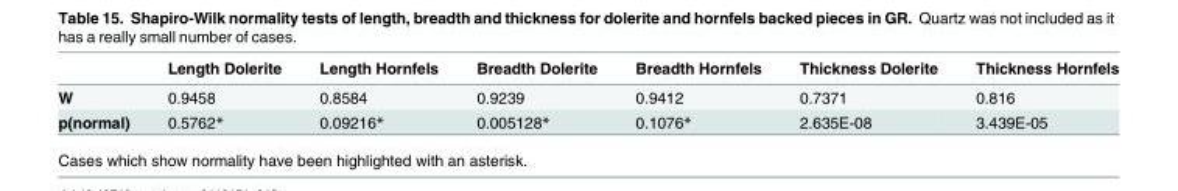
<table><thead><tr><td></td><td>Length Dolerite</td><td>Length Hornfels</td><td>Breadth Dolerite</td><td>Breadth Hornfels</td><td>Thickness Dolerite</td><td>Thickness Hornfels</td></tr></thead><tbody><tr><td>W</td><td>0.9458</td><td>0.8584</td><td>0.9239</td><td>0.9412</td><td>0.7371</td><td>0.816</td></tr><tr><td>p(normal)</td><td>0.5762*</td><td>0.09216*</td><td>0.005128*</td><td>0.1076*</td><td>2.635E-08</td><td>3.439E-05</td></tr></tbody></table>